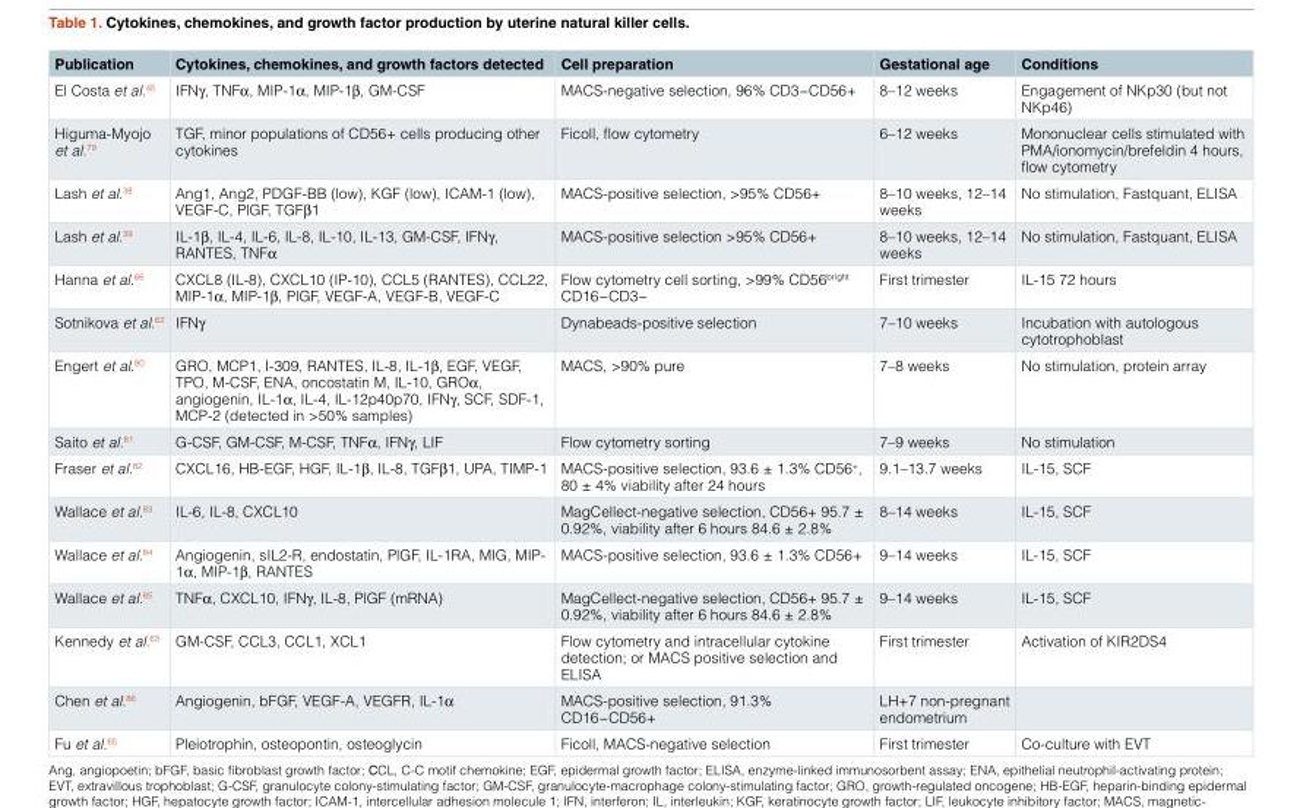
<table><thead><tr><td>Publication</td><td>Cytokines, chemokines, and growth factors detected</td><td>Cell preparation</td><td>Gestational age</td><td>Conditions</td></tr></thead><tbody><tr><td>El Costa et al.<sup>45</sup></td><td>IFNγ, TNFα, MIP-1α, MIP-1β, GM-CSF</td><td>MACS-negative selection, 96% CD3−CD56+</td><td>8–12 weeks</td><td>Engagement of NKp30 (but not NKp46)</td></tr><tr><td>Higuma-Myojo et al.<sup>79</sup></td><td>TGF, minor populations of CD56+ cells producing other cytokines</td><td>Ficoll, flow cytometry</td><td>6–12 weeks</td><td>Mononuclear cells stimulated with PMA/ionomycin/brefeldin 4 hours, flow cytometry</td></tr><tr><td>Lash et al.<sup>38</sup></td><td>Ang1, Ang2, PDGF-BB (low), KGF (low), ICAM-1 (low), VEGF-C, PlGF, TGFβ1</td><td>MACS-positive selection, &gt;95% CD56+</td><td>8–10 weeks, 12–14 weeks</td><td>No stimulation, Fastquant, ELISA</td></tr><tr><td>Lash et al.<sup>39</sup></td><td>IL-1β, IL-4, IL-6, IL-8, IL-10, IL-13, GM-CSF, IFNγ, RANTES, TNFα</td><td>MACS-positive selection &gt;95% CD56+</td><td>8–10 weeks, 12–14 weeks</td><td>No stimulation, Fastquant, ELISA</td></tr><tr><td>Hanna et al.<sup>66</sup></td><td>CXCL8 (IL-8), CXCL10 (IP-10), CCL5 (RANTES), CCL22, MIP-1α, MIP-1β, PlGF, VEGF-A, VEGF-B, VEGF-C</td><td>Flow cytometry cell sorting, &gt;99% CD56<sup>bright</sup> CD16−CD3−</td><td>First trimester</td><td>IL-15 72 hours</td></tr><tr><td>Sotnikova et al.<sup>62</sup></td><td>IFNγ</td><td>Dynabeads-positive selection</td><td>7–10 weeks</td><td>Incubation with autologous cytotrophoblast</td></tr><tr><td>Engert et al.<sup>80</sup></td><td>GRO, MCP1, I-309, RANTES, IL-8, IL-1β, EGF, VEGF, TPO, M-CSF, ENA, oncostatin M, IL-10, GROα, angiogenin, IL-1α, IL-4, IL-12p40p70, IFNγ, SCF, SDF-1, MCP-2 (detected in &gt;50% samples)</td><td>MACS, &gt;90% pure</td><td>7–8 weeks</td><td>No stimulation, protein array</td></tr><tr><td>Saito et al.<sup>81</sup></td><td>G-CSF, GM-CSF, M-CSF, TNFα, IFNγ, LIF</td><td>Flow cytometry sorting</td><td>7–9 weeks</td><td>No stimulation</td></tr><tr><td>Fraser et al.<sup>82</sup></td><td>CXCL16, HB-EGF, HGF, IL-1β, IL-8, TGFβ1, UPA, TIMP-1</td><td>MACS-positive selection, 93.6 ± 1.3% CD56<sup>+</sup>, 80 ± 4% viability after 24 hours</td><td>9.1–13.7 weeks</td><td>IL-15, SCF</td></tr><tr><td>Wallace et al.<sup>83</sup></td><td>IL-6, IL-8, CXCL10</td><td>MagCellect-negative selection, CD56+ 95.7 ± 0.92%, viability after 6 hours 84.6 ± 2.8%</td><td>8–14 weeks</td><td>IL-15, SCF</td></tr><tr><td>Wallace et al.<sup>84</sup></td><td>Angiogenin, sIL2-R, endostatin, PlGF, IL-1RA, MIG, MIP- 1α, MIP-1β, RANTES</td><td>MACS-positive selection, 93.6 ± 1.3% CD56+</td><td>9–14 weeks</td><td>IL-15, SCF</td></tr><tr><td>Wallace et al.<sup>85</sup></td><td>TNFα, CXCL10, IFNγ, IL-8, PlGF (mRNA)</td><td>MagCellect-negative selection, CD56+ 95.7 ± 0.92%, viability after 6 hours 84.6 ± 2.8%</td><td>9–14 weeks</td><td>IL-15, SCF</td></tr><tr><td>Kennedy et al.<sup>63</sup></td><td>GM-CSF, CCL3, CCL1, XCL1</td><td>Flow cytometry and intracellular cytokine detection; or MACS positive selection and ELISA</td><td>First trimester</td><td>Activation of KIR2DS4</td></tr><tr><td>Chen et al.<sup>86</sup></td><td>Angiogenin, bFGF, VEGF-A, VEGFR, IL-1α</td><td>MACS-positive selection, 91.3% CD16−CD56+</td><td>LH+7 non-pregnant endometrium</td><td></td></tr><tr><td>Fu et al.<sup>65</sup></td><td>Pleiotrophin, osteopontin, osteoglycin</td><td>Ficoll, MACS-negative selection</td><td>First trimester</td><td>Co-culture with EVT</td></tr></tbody></table>